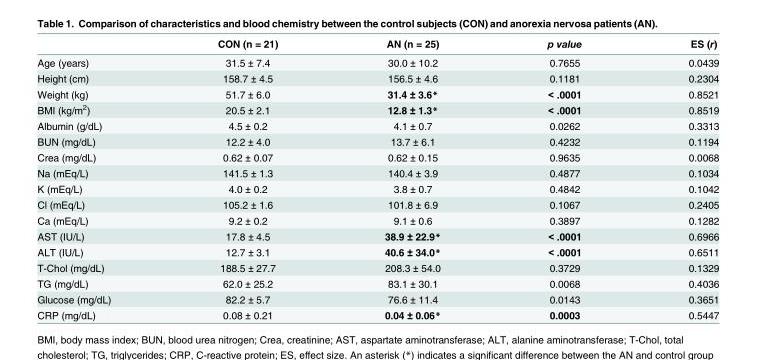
<table><thead><tr><td></td><td>CON (n = 21)</td><td>AN (n = 25)</td><td>p value</td><td>ES (r)</td></tr></thead><tbody><tr><td>Age (years)</td><td>31.5 ± 7.4</td><td>30.0 ± 10.2</td><td>0.7655</td><td>0.0439</td></tr><tr><td>Height (cm)</td><td>158.7 ± 4.5</td><td>156.5 ± 4.6</td><td>0.1181</td><td>0.2304</td></tr><tr><td>Weight (kg)</td><td>51.7 ± 6.0</td><td>31.4 ± 3.6*</td><td>&lt; .0001</td><td>0.8521</td></tr><tr><td>BMI (kg/m<sup>2</sup>)</td><td>20.5 ± 2.1</td><td>12.8 ± 1.3*</td><td>&lt; .0001</td><td>0.8519</td></tr><tr><td>Albumin (g/dL)</td><td>4.5 ± 0.2</td><td>4.1 ± 0.7</td><td>0.0262</td><td>0.3313</td></tr><tr><td>BUN (mg/dL)</td><td>12.2 ± 4.0</td><td>13.7 ± 6.1</td><td>0.4232</td><td>0.1194</td></tr><tr><td>Crea (mg/dL)</td><td>0.62 ± 0.07</td><td>0.62 ± 0.15</td><td>0.9635</td><td>0.0068</td></tr><tr><td>Na (mEq/L)</td><td>141.5 ± 1.3</td><td>140.4 ± 3.9</td><td>0.4877</td><td>0.1034</td></tr><tr><td>K (mEq/L)</td><td>4.0 ± 0.2</td><td>3.8 ± 0.7</td><td>0.4842</td><td>0.1042</td></tr><tr><td>Cl (mEq/L)</td><td>105.2 ± 1.6</td><td>101.8 ± 6.9</td><td>0.1067</td><td>0.2405</td></tr><tr><td>Ca (mEq/L)</td><td>9.2 ± 0.2</td><td>9.1 ± 0.6</td><td>0.3897</td><td>0.1282</td></tr><tr><td>AST (IU/L)</td><td>17.8 ± 4.5</td><td>38.9 ± 22.9*</td><td>&lt; .0001</td><td>0.6966</td></tr><tr><td>ALT (IU/L)</td><td>12.7 ± 3.1</td><td>40.6 ± 34.0*</td><td>&lt; .0001</td><td>0.6511</td></tr><tr><td>T-Chol (mg/dL)</td><td>188.5 ± 27.7</td><td>208.3 ± 54.0</td><td>0.3729</td><td>0.1329</td></tr><tr><td>TG (mg/dL)</td><td>62.0 ± 25.2</td><td>83.1 ± 30.1</td><td>0.0068</td><td>0.4036</td></tr><tr><td>Glucose (mg/dL)</td><td>82.2 ± 5.7</td><td>76.6 ± 11.4</td><td>0.0143</td><td>0.3651</td></tr><tr><td>CRP (mg/dL)</td><td>0.08 ± 0.21</td><td>0.04 ± 0.06*</td><td>0.0003</td><td>0.5447</td></tr></tbody></table>